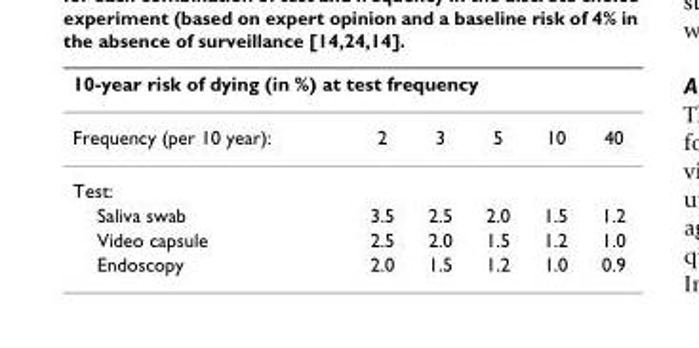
<table><thead><tr><td colspan="6">10-year risk of dying (in %) at test frequency</td></tr><tr><td>Frequency (per 10 year):</td><td>2</td><td>3</td><td>5</td><td>10</td><td>40</td></tr></thead><tbody><tr><td colspan="6">Test:</td></tr><tr><td>Saliva swab</td><td>3.5</td><td>2.5</td><td>2.0</td><td>1.5</td><td>1.2</td></tr><tr><td>Video capsule</td><td>2.5</td><td>2.0</td><td>1.5</td><td>1.2</td><td>1.0</td></tr><tr><td>Endoscopy</td><td>2.0</td><td>1.5</td><td>1.2</td><td>1.0</td><td>0.9</td></tr></tbody></table>